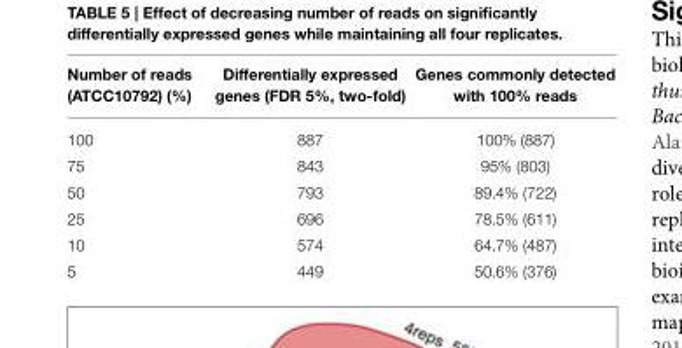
<table><thead><tr><td>Number of reads (ATCC10792) (%)</td><td>Differentially expressed genes (FDR 5%, two-fold)</td><td>Genes commonly detected with 100% reads</td></tr></thead><tbody><tr><td>100</td><td>887</td><td>100% (887)</td></tr><tr><td>75</td><td>843</td><td>95% (803)</td></tr><tr><td>50</td><td>793</td><td>89.4% (722)</td></tr><tr><td>25</td><td>696</td><td>78.5% (611)</td></tr><tr><td>10</td><td>574</td><td>64.7% (487)</td></tr><tr><td>5</td><td>449</td><td>50.6% (376)</td></tr></tbody></table>